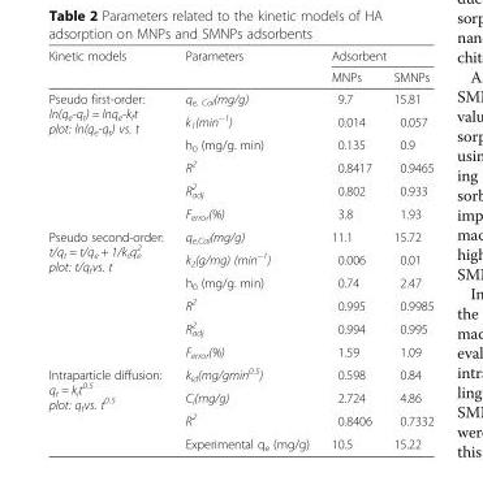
<table><thead><tr><td rowspan="2">Kinetic models</td><td rowspan="2">Parameters</td><td colspan="2">Adsorbent</td></tr><tr><td>MNPs</td><td>SMNPs</td></tr></thead><tbody><tr><td rowspan="6">Pseudo first-order: ln(q<sub>e</sub>-q<sub>t</sub>) = lnq<sub>e</sub>-k<sub>f</sub>t plot: ln(q<sub>e</sub>-q<sub>t</sub>) vs. t</td><td>q<sub>e, Cal</sub>(mg/g)</td><td>9.7</td><td>15.81</td></tr><tr><td>k<sub>1</sub>(min<sup>−1</sup>)</td><td>0.014</td><td>0.057</td></tr><tr><td>h<sub>0</sub> (mg/g. min)</td><td>0.135</td><td>0.9</td></tr><tr><td>R<sup>2</sup></td><td>0.8417</td><td>0.9465</td></tr><tr><td>R<sub>adj</sub> <sup>2</sup></td><td>0.802</td><td>0.933</td></tr><tr><td>F<sub>error</sub>(%)</td><td>3.8</td><td>1.93</td></tr><tr><td rowspan="6">Pseudo second-order: t/q<sub>t</sub> = t/q<sub>e</sub> + 1/k<sub>s</sub>q<sub>e</sub> <sup>2</sup> plot: t/q<sub>t</sub>vs. t</td><td>q<sub>e,Cal</sub>(mg/g)</td><td>11.1</td><td>15.72</td></tr><tr><td>k<sub>2</sub>(g/mg) (min<sup>−1</sup>)</td><td>0.006</td><td>0.01</td></tr><tr><td>h<sub>0</sub> (mg/g. min)</td><td>0.74</td><td>2.47</td></tr><tr><td>R<sup>2</sup></td><td>0.995</td><td>0.9985</td></tr><tr><td>R<sub>adj</sub> <sup>2</sup></td><td>0.994</td><td>0.995</td></tr><tr><td>F<sub>error</sub>(%)</td><td>1.59</td><td>1.09</td></tr><tr><td rowspan="4">Intraparticle diffusion: q<sub>t</sub> = k<sub>i</sub>t<sup>0.5</sup> plot: q<sub>t</sub>vs. t<sup>0.5</sup></td><td>k<sub>id</sub>(mg/gmin<sup>0.5</sup>)</td><td>0.598</td><td>0.84</td></tr><tr><td>C<sub>i</sub>(mg/g)</td><td>2.724</td><td>4.86</td></tr><tr><td>R<sup>2</sup></td><td>0.8406</td><td>0.7332</td></tr><tr><td>Experimental q<sub>e</sub> (mg/g)</td><td>10.5</td><td>15.22</td></tr></tbody></table>